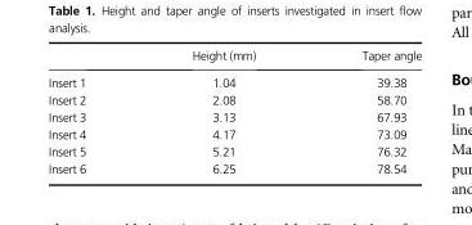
<table><thead><tr><td></td><td>Height (mm)</td><td>Taper angle</td></tr></thead><tbody><tr><td>Insert 1</td><td>1.04</td><td>39.38</td></tr><tr><td>Insert 2</td><td>2.08</td><td>58.70</td></tr><tr><td>Insert 3</td><td>3.13</td><td>67.93</td></tr><tr><td>Insert 4</td><td>4.17</td><td>73.09</td></tr><tr><td>Insert 5</td><td>5.21</td><td>76.32</td></tr><tr><td>Insert 6</td><td>6.25</td><td>78.54</td></tr></tbody></table>